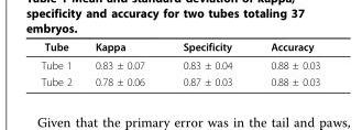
<table><thead><tr><td>Tube</td><td>Kappa</td><td>Specificity</td><td>Accuracy</td></tr></thead><tbody><tr><td>Tube 1</td><td>0.83 ± 0.07</td><td>0.83 ± 0.04</td><td>0.88 ± 0.03</td></tr><tr><td>Tube 2</td><td>0.78 ± 0.06</td><td>0.87 ± 0.03</td><td>0.88 ± 0.03</td></tr></tbody></table>